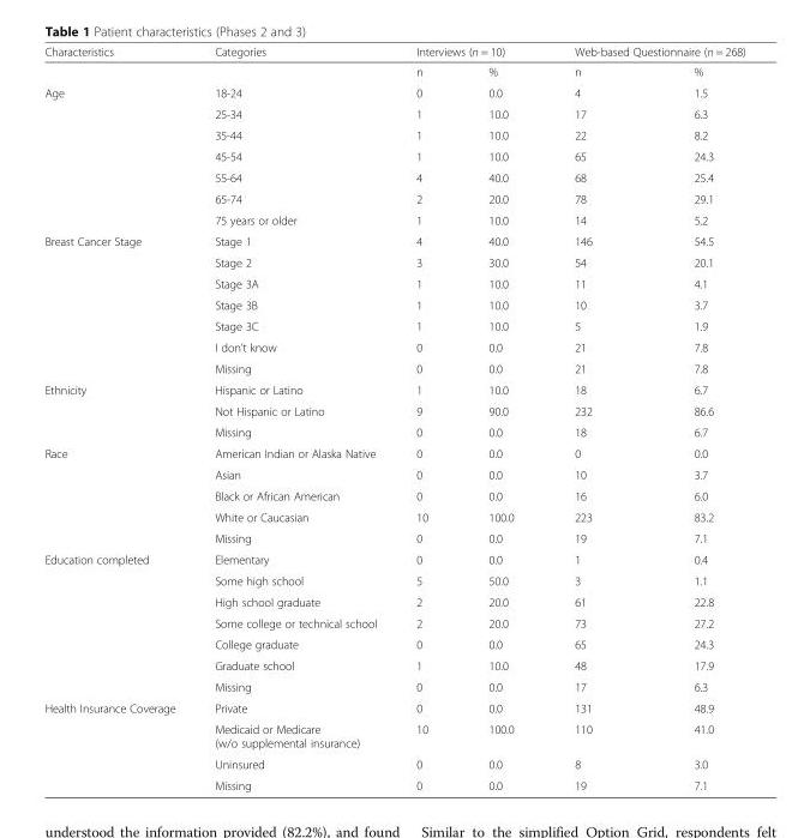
<table><thead><tr><td rowspan="2">Characteristics</td><td rowspan="2">Categories</td><td colspan="2">Interviews (n = 10)</td><td colspan="2">Web-based Questionnaire (n = 268)</td></tr><tr><td>n</td><td>%</td><td>n</td><td>%</td></tr></thead><tbody><tr><td rowspan="7">Age</td><td>18-24</td><td>0</td><td>0.0</td><td>4</td><td>1.5</td></tr><tr><td>25-34</td><td>1</td><td>10.0</td><td>17</td><td>6.3</td></tr><tr><td>35-44</td><td>1</td><td>10.0</td><td>22</td><td>8.2</td></tr><tr><td>45-54</td><td>1</td><td>10.0</td><td>65</td><td>24.3</td></tr><tr><td>55-64</td><td>4</td><td>40.0</td><td>68</td><td>25.4</td></tr><tr><td>65-74</td><td>2</td><td>20.0</td><td>78</td><td>29.1</td></tr><tr><td>75 years or older</td><td>1</td><td>10.0</td><td>14</td><td>5.2</td></tr><tr><td rowspan="7">Breast Cancer Stage</td><td>Stage 1</td><td>4</td><td>40.0</td><td>146</td><td>54.5</td></tr><tr><td>Stage 2</td><td>3</td><td>30.0</td><td>54</td><td>20.1</td></tr><tr><td>Stage 3A</td><td>1</td><td>10.0</td><td>11</td><td>4.1</td></tr><tr><td>Stage 3B</td><td>1</td><td>10.0</td><td>10</td><td>3.7</td></tr><tr><td>Stage 3C</td><td>1</td><td>10.0</td><td>5</td><td>1.9</td></tr><tr><td>I don’t know</td><td>0</td><td>0.0</td><td>21</td><td>7.8</td></tr><tr><td>Missing</td><td>0</td><td>0.0</td><td>21</td><td>7.8</td></tr><tr><td rowspan="3">Ethnicity</td><td>Hispanic or Latino</td><td>1</td><td>10.0</td><td>18</td><td>6.7</td></tr><tr><td>Not Hispanic or Latino</td><td>9</td><td>90.0</td><td>232</td><td>86.6</td></tr><tr><td>Missing</td><td>0</td><td>0.0</td><td>18</td><td>6.7</td></tr><tr><td rowspan="5">Race</td><td>American Indian or Alaska Native</td><td>0</td><td>0.0</td><td>0</td><td>0.0</td></tr><tr><td>Asian</td><td>0</td><td>0.0</td><td>10</td><td>3.7</td></tr><tr><td>Black or African American</td><td>0</td><td>0.0</td><td>16</td><td>6.0</td></tr><tr><td>White or Caucasian</td><td>10</td><td>100.0</td><td>223</td><td>83.2</td></tr><tr><td>Missing</td><td>0</td><td>0.0</td><td>19</td><td>7.1</td></tr><tr><td rowspan="7">Education completed</td><td>Elementary</td><td>0</td><td>0.0</td><td>1</td><td>0.4</td></tr><tr><td>Some high school</td><td>5</td><td>50.0</td><td>3</td><td>1.1</td></tr><tr><td>High school graduate</td><td>2</td><td>20.0</td><td>61</td><td>22.8</td></tr><tr><td>Some college or technical school</td><td>2</td><td>20.0</td><td>73</td><td>27.2</td></tr><tr><td>College graduate</td><td>0</td><td>0.0</td><td>65</td><td>24.3</td></tr><tr><td>Graduate school</td><td>1</td><td>10.0</td><td>48</td><td>17.9</td></tr><tr><td>Missing</td><td>0</td><td>0.0</td><td>17</td><td>6.3</td></tr><tr><td rowspan="4">Health Insurance Coverage</td><td>Private</td><td>0</td><td>0.0</td><td>131</td><td>48.9</td></tr><tr><td>Medicaid or Medicare (w/o supplemental insurance)</td><td>10</td><td>100.0</td><td>110</td><td>41.0</td></tr><tr><td>Uninsured</td><td>0</td><td>0.0</td><td>8</td><td>3.0</td></tr><tr><td>Missing</td><td>0</td><td>0.0</td><td>19</td><td>7.1</td></tr></tbody></table>